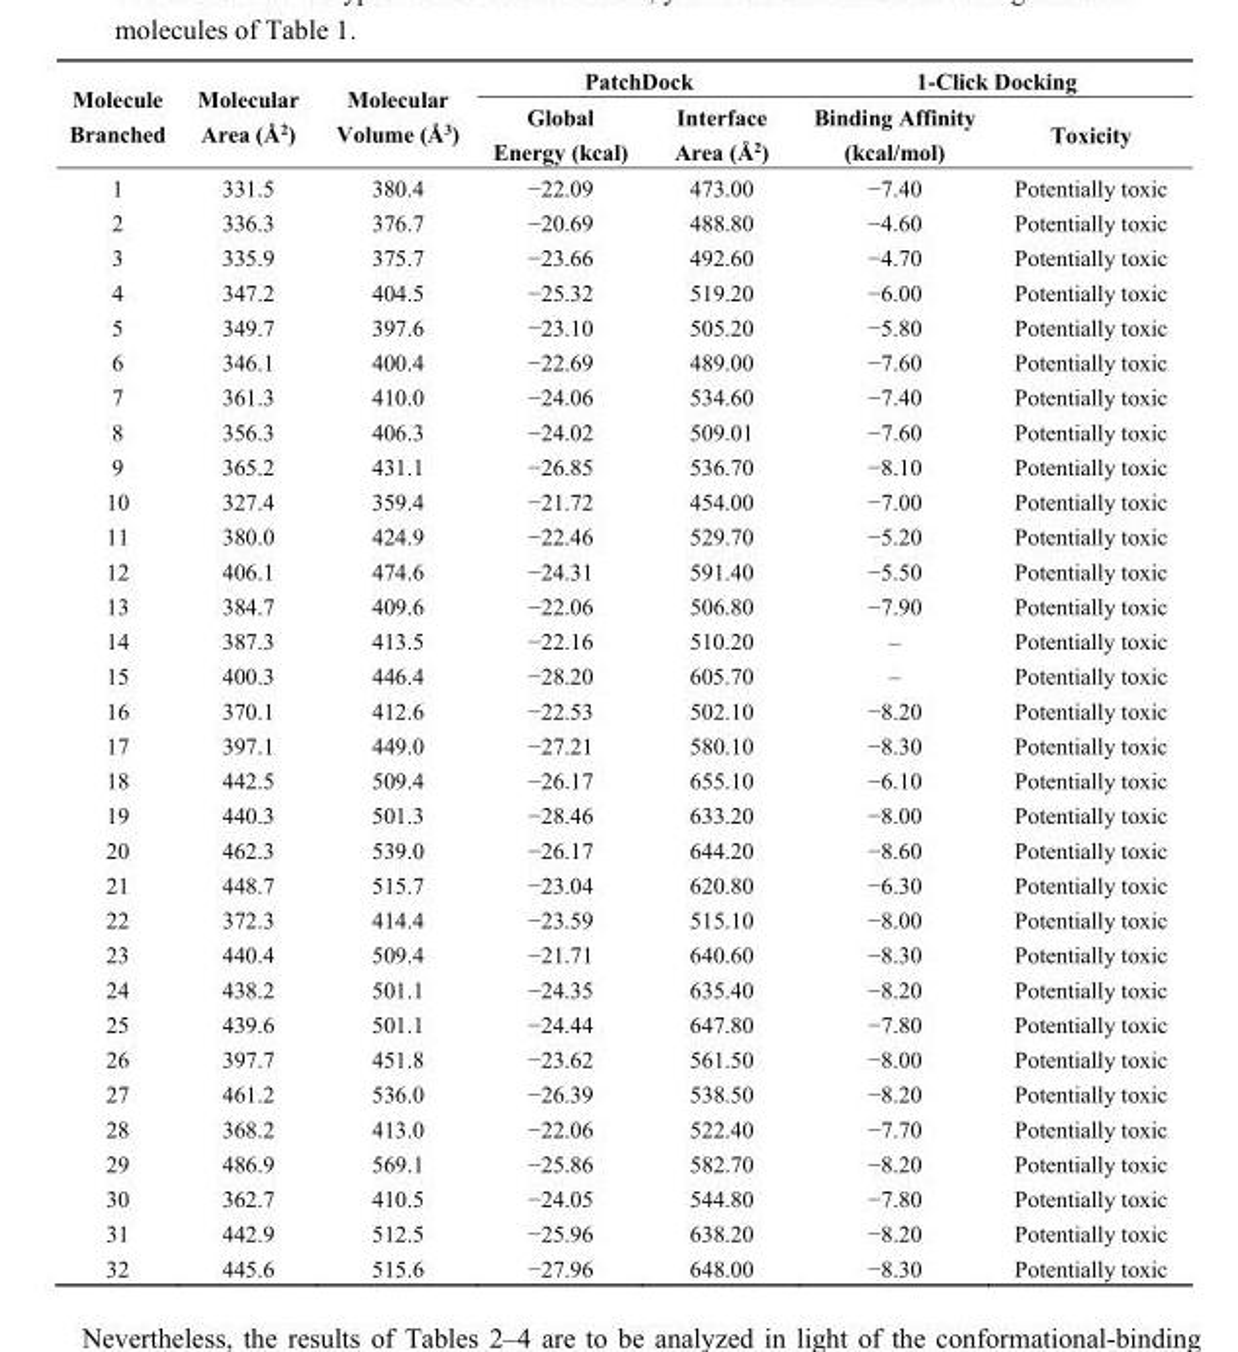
<table><thead><tr><td rowspan="2">Molecule Branched</td><td rowspan="2">Molecular Area (Å<sup>2</sup>)</td><td rowspan="2">Molecular Volume (Å<sup>3</sup>)</td><td colspan="2">PatchDock</td><td colspan="2">1-Click Docking</td></tr><tr><td>Global Energy (kcal)</td><td>Interface Area (Å<sup>2</sup>)</td><td>Binding Affinity (kcal/mol)</td><td>Toxicity</td></tr></thead><tbody><tr><td>1</td><td>331.5</td><td>380.4</td><td>−22.09</td><td>473.00</td><td>−7.40</td><td>Potentially toxic</td></tr><tr><td>2</td><td>336.3</td><td>376.7</td><td>−20.69</td><td>488.80</td><td>−4.60</td><td>Potentially toxic</td></tr><tr><td>3</td><td>335.9</td><td>375.7</td><td>−23.66</td><td>492.60</td><td>−4.70</td><td>Potentially toxic</td></tr><tr><td>4</td><td>347.2</td><td>404.5</td><td>−25.32</td><td>519.20</td><td>−6.00</td><td>Potentially toxic</td></tr><tr><td>5</td><td>349.7</td><td>397.6</td><td>−23.10</td><td>505.20</td><td>−5.80</td><td>Potentially toxic</td></tr><tr><td>6</td><td>346.1</td><td>400.4</td><td>−22.69</td><td>489.00</td><td>−7.60</td><td>Potentially toxic</td></tr><tr><td>7</td><td>361.3</td><td>410.0</td><td>−24.06</td><td>534.60</td><td>−7.40</td><td>Potentially toxic</td></tr><tr><td>8</td><td>356.3</td><td>406.3</td><td>−24.02</td><td>509.01</td><td>−7.60</td><td>Potentially toxic</td></tr><tr><td>9</td><td>365.2</td><td>431.1</td><td>−26.85</td><td>536.70</td><td>−8.10</td><td>Potentially toxic</td></tr><tr><td>10</td><td>327.4</td><td>359.4</td><td>−21.72</td><td>454.00</td><td>−7.00</td><td>Potentially toxic</td></tr><tr><td>11</td><td>380.0</td><td>424.9</td><td>−22.46</td><td>529.70</td><td>−5.20</td><td>Potentially toxic</td></tr><tr><td>12</td><td>406.1</td><td>474.6</td><td>−24.31</td><td>591.40</td><td>−5.50</td><td>Potentially toxic</td></tr><tr><td>13</td><td>384.7</td><td>409.6</td><td>−22.06</td><td>506.80</td><td>−7.90</td><td>Potentially toxic</td></tr><tr><td>14</td><td>387.3</td><td>413.5</td><td>−22.16</td><td>510.20</td><td>–</td><td>Potentially toxic</td></tr><tr><td>15</td><td>400.3</td><td>446.4</td><td>−28.20</td><td>605.70</td><td>–</td><td>Potentially toxic</td></tr><tr><td>16</td><td>370.1</td><td>412.6</td><td>−22.53</td><td>502.10</td><td>−8.20</td><td>Potentially toxic</td></tr><tr><td>17</td><td>397.1</td><td>449.0</td><td>−27.21</td><td>580.10</td><td>−8.30</td><td>Potentially toxic</td></tr><tr><td>18</td><td>442.5</td><td>509.4</td><td>−26.17</td><td>655.10</td><td>−6.10</td><td>Potentially toxic</td></tr><tr><td>19</td><td>440.3</td><td>501.3</td><td>−28.46</td><td>633.20</td><td>−8.00</td><td>Potentially toxic</td></tr><tr><td>20</td><td>462.3</td><td>539.0</td><td>−26.17</td><td>644.20</td><td>−8.60</td><td>Potentially toxic</td></tr><tr><td>21</td><td>448.7</td><td>515.7</td><td>−23.04</td><td>620.80</td><td>−6.30</td><td>Potentially toxic</td></tr><tr><td>22</td><td>372.3</td><td>414.4</td><td>−23.59</td><td>515.10</td><td>−8.00</td><td>Potentially toxic</td></tr><tr><td>23</td><td>440.4</td><td>509.4</td><td>−21.71</td><td>640.60</td><td>−8.30</td><td>Potentially toxic</td></tr><tr><td>24</td><td>438.2</td><td>501.1</td><td>−24.35</td><td>635.40</td><td>−8.20</td><td>Potentially toxic</td></tr><tr><td>25</td><td>439.6</td><td>501.1</td><td>−24.44</td><td>647.80</td><td>−7.80</td><td>Potentially toxic</td></tr><tr><td>26</td><td>397.7</td><td>451.8</td><td>−23.62</td><td>561.50</td><td>−8.00</td><td>Potentially toxic</td></tr><tr><td>27</td><td>461.2</td><td>536.0</td><td>−26.39</td><td>538.50</td><td>−8.20</td><td>Potentially toxic</td></tr><tr><td>28</td><td>368.2</td><td>413.0</td><td>−22.06</td><td>522.40</td><td>−7.70</td><td>Potentially toxic</td></tr><tr><td>29</td><td>486.9</td><td>569.1</td><td>−25.86</td><td>582.70</td><td>−8.20</td><td>Potentially toxic</td></tr><tr><td>30</td><td>362.7</td><td>410.5</td><td>−24.05</td><td>544.80</td><td>−7.80</td><td>Potentially toxic</td></tr><tr><td>31</td><td>442.9</td><td>512.5</td><td>−25.96</td><td>638.20</td><td>−8.20</td><td>Potentially toxic</td></tr><tr><td>32</td><td>445.6</td><td>515.6</td><td>−27.96</td><td>648.00</td><td>−8.30</td><td>Potentially toxic</td></tr></tbody></table>